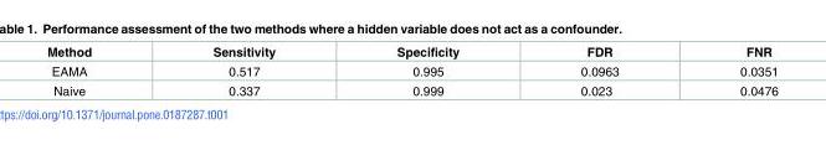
<table><thead><tr><td>Method</td><td>Sensitivity</td><td>Specificity</td><td>FDR</td><td>FNR</td></tr></thead><tbody><tr><td>EAMA</td><td>0.517</td><td>0.995</td><td>0.0963</td><td>0.0351</td></tr><tr><td>Naive</td><td>0.337</td><td>0.999</td><td>0.023</td><td>0.0476</td></tr></tbody></table>